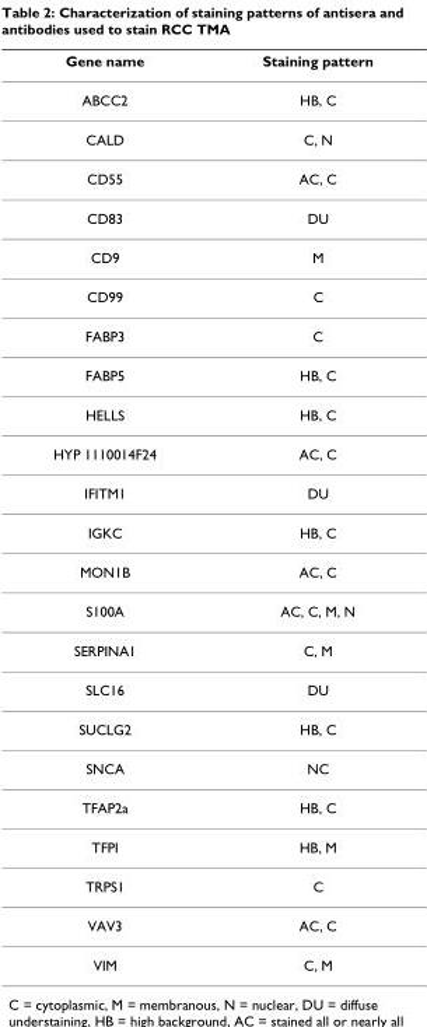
<table><thead><tr><td>Gene name</td><td>Staining pattern</td></tr></thead><tbody><tr><td>ABCC2</td><td>HB, C</td></tr><tr><td>CALD</td><td>C, N</td></tr><tr><td>CD55</td><td>AC, C</td></tr><tr><td>CD83</td><td>DU</td></tr><tr><td>CD9</td><td>M</td></tr><tr><td>CD99</td><td>C</td></tr><tr><td>FABP3</td><td>C</td></tr><tr><td>FABP5</td><td>HB, C</td></tr><tr><td>HELLS</td><td>HB, C</td></tr><tr><td>HYP 1110014F24</td><td>AC, C</td></tr><tr><td>IFITM1</td><td>DU</td></tr><tr><td>IGKC</td><td>HB, C</td></tr><tr><td>MON1B</td><td>AC, C</td></tr><tr><td>S100A</td><td>AC, C, M, N</td></tr><tr><td>SERPINA1</td><td>C, M</td></tr><tr><td>SLC16</td><td>DU</td></tr><tr><td>SUCLG2</td><td>HB, C</td></tr><tr><td>SNCA</td><td>NC</td></tr><tr><td>TFAP2a</td><td>HB, C</td></tr><tr><td>TFPI</td><td>HB, M</td></tr><tr><td>TRPS1</td><td>C</td></tr><tr><td>VAV3</td><td>AC, C</td></tr><tr><td>VIM</td><td>C, M</td></tr></tbody></table>